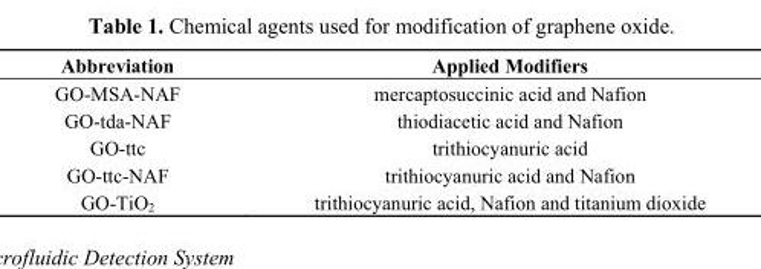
<table><thead><tr><td>Abbreviation</td><td>Applied Modifiers</td></tr></thead><tbody><tr><td>GO-MSA-NAF</td><td>mercaptosuccinic acid and Nafion</td></tr><tr><td>GO-tda-NAF</td><td>thiodiacetic acid and Nafion</td></tr><tr><td>GO-ttc</td><td>trithiocyanuric acid</td></tr><tr><td>GO-ttc-NAF</td><td>trithiocyanuric acid and Nafion</td></tr><tr><td>GO-TiO<sub>2</sub></td><td>trithiocyanuric acid, Nafion and titanium dioxide</td></tr></tbody></table>